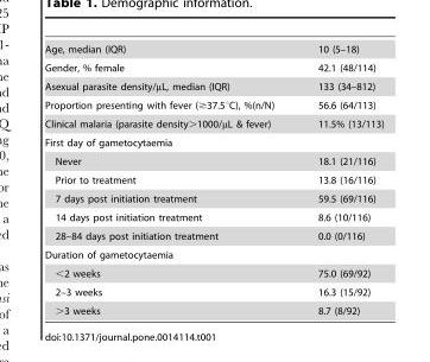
<table><tbody><tr><td>Age, median (IQR)</td><td>10 (5–18)</td></tr><tr><td>Gender, % female</td><td>42.1 (48/114)</td></tr><tr><td>Asexual parasite density/µL, median (IQR)</td><td>133 (34–812)</td></tr><tr><td>Proportion presenting with fever (≥37.5°C), %(n/N)</td><td>56.6 (64/113)</td></tr><tr><td>Clinical malaria (parasite density&gt;1000/µL &amp; fever)</td><td>11.5% (13/113)</td></tr><tr><td colspan="2">First day of gametocytaemia</td></tr><tr><td>Never</td><td>18.1 (21/116)</td></tr><tr><td>Prior to treatment</td><td>13.8 (16/116)</td></tr><tr><td>7 days post initiation treatment</td><td>59.5 (69/116)</td></tr><tr><td>14 days post initiation treatment</td><td>8.6 (10/116)</td></tr><tr><td>28–84 days post initiation treatment</td><td>0.0 (0/116)</td></tr><tr><td colspan="2">Duration of gametocytaemia</td></tr><tr><td>&lt;2 weeks</td><td>75.0 (69/92)</td></tr><tr><td>2–3 weeks</td><td>16.3 (15/92)</td></tr><tr><td>&gt;3 weeks</td><td>8.7 (8/92)</td></tr></tbody></table>